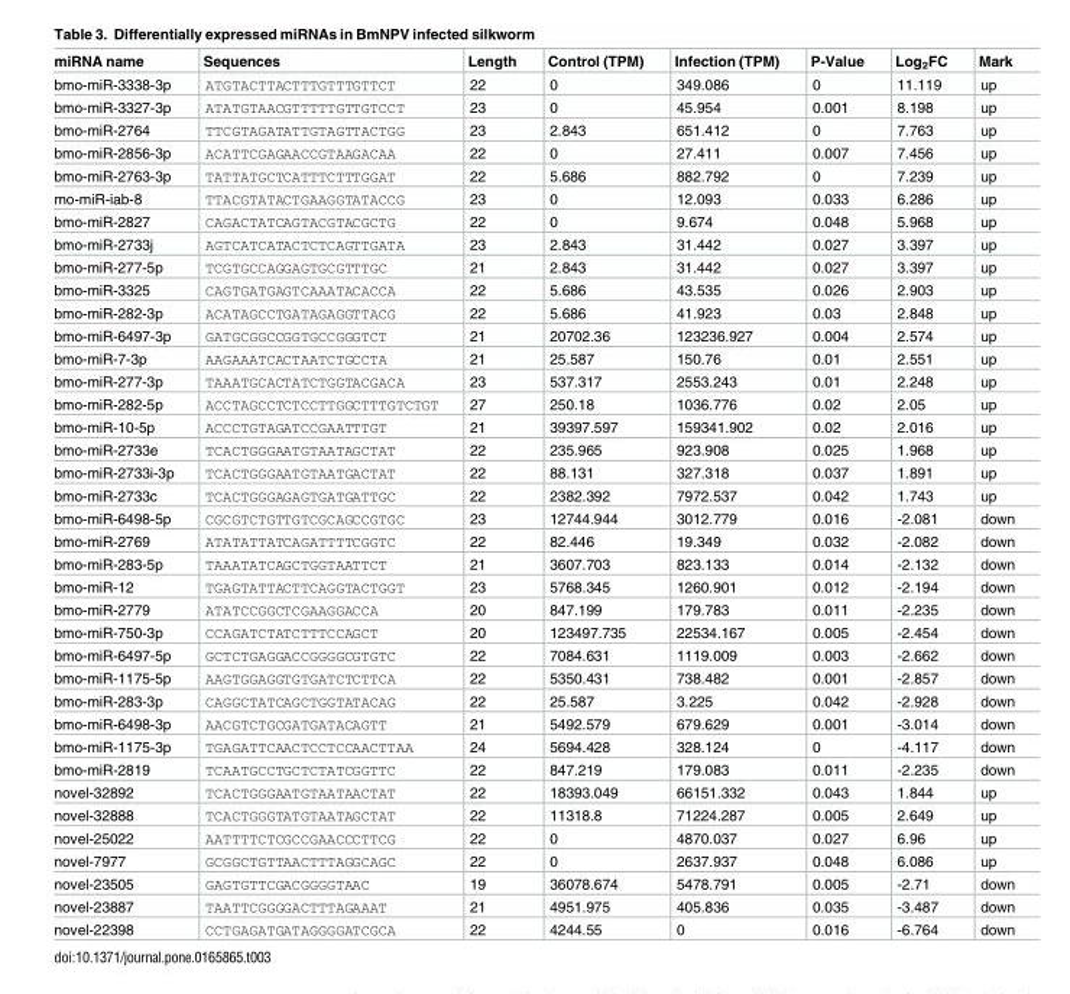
<table><thead><tr><td>miRNA name</td><td>Sequences</td><td>Length</td><td>Control (TPM)</td><td>Infection (TPM)</td><td>P-Value</td><td>Log<sub>2</sub>FC</td><td>Mark</td></tr></thead><tbody><tr><td>bmo-miR-3338-3p</td><td>ATGTACTTACTTTGTTTGTTCT</td><td>22</td><td>0</td><td>349.086</td><td>0</td><td>11.119</td><td>up</td></tr><tr><td>bmo-miR-3327-3p</td><td>ATATGTAACGTTTTTGTTGTCCT</td><td>23</td><td>0</td><td>45.954</td><td>0.001</td><td>8.198</td><td>up</td></tr><tr><td>bmo-miR-2764</td><td>TTCGTAGATATTGTAGTTACTGG</td><td>23</td><td>2.843</td><td>651.412</td><td>0</td><td>7.763</td><td>up</td></tr><tr><td>bmo-miR-2856-3p</td><td>ACATTCGAGAACCGTAAGACAA</td><td>22</td><td>0</td><td>27.411</td><td>0.007</td><td>7.456</td><td>up</td></tr><tr><td>bmo-miR-2763-3p</td><td>TATTATGCTCATTTCTTTGGAT</td><td>22</td><td>5.686</td><td>882.792</td><td>0</td><td>7.239</td><td>up</td></tr><tr><td>mo-miR-iab-8</td><td>TTACGTATACTGAAGGTATACCG</td><td>23</td><td>0</td><td>12.093</td><td>0.033</td><td>6.286</td><td>up</td></tr><tr><td>bmo-miR-2827</td><td>CAGACTATCAGTACGTACGCTG</td><td>22</td><td>0</td><td>9.674</td><td>0.048</td><td>5.968</td><td>up</td></tr><tr><td>bmo-miR-2733j</td><td>AGTCATCATACTCTCAGTTGATA</td><td>23</td><td>2.843</td><td>31.442</td><td>0.027</td><td>3.397</td><td>up</td></tr><tr><td>bmo-miR-277-5p</td><td>TCGTGCCAGGAGTGCGTTTGC</td><td>21</td><td>2.843</td><td>31.442</td><td>0.027</td><td>3.397</td><td>up</td></tr><tr><td>bmo-miR-3325</td><td>CAGTGATGAGTCAAATACACCA</td><td>22</td><td>5.686</td><td>43.535</td><td>0.026</td><td>2.903</td><td>up</td></tr><tr><td>bmo-miR-282-3p</td><td>ACATAGCCTGATAGAGGTTACG</td><td>22</td><td>5.686</td><td>41.923</td><td>0.03</td><td>2.848</td><td>up</td></tr><tr><td>bmo-miR-6497-3p</td><td>GATGCGGCCGGTGCCGGGTCT</td><td>21</td><td>20702.36</td><td>123236.927</td><td>0.004</td><td>2.574</td><td>up</td></tr><tr><td>bmo-miR-7-3p</td><td>AAGAAATCACTAATCTGCCTA</td><td>21</td><td>25.587</td><td>150.76</td><td>0.01</td><td>2.551</td><td>up</td></tr><tr><td>bmo-miR-277-3p</td><td>TAAATGCACTATCTGGTACGACA</td><td>23</td><td>537.317</td><td>2553.243</td><td>0.01</td><td>2.248</td><td>up</td></tr><tr><td>bmo-miR-282-5p</td><td>ACCTAGCCTCTCCTTGGCTTTGTCTGT</td><td>27</td><td>250.18</td><td>1036.776</td><td>0.02</td><td>2.05</td><td>up</td></tr><tr><td>bmo-miR-10-5p</td><td>ACCCTGTAGATCCGAATTTGT</td><td>21</td><td>39397.597</td><td>159341.902</td><td>0.02</td><td>2.016</td><td>up</td></tr><tr><td>bmo-miR-2733e</td><td>TCACTGGGAATGTAATAGCTAT</td><td>22</td><td>235.965</td><td>923.908</td><td>0.025</td><td>1.968</td><td>up</td></tr><tr><td>bmo-miR-2733i-3p</td><td>TCACTGGGAATGTAATGACTAT</td><td>22</td><td>88.131</td><td>327.318</td><td>0.037</td><td>1.891</td><td>up</td></tr><tr><td>bmo-miR-2733c</td><td>TCACTGGGAGAGTGATGATTGC</td><td>22</td><td>2382.392</td><td>7972.537</td><td>0.042</td><td>1.743</td><td>up</td></tr><tr><td>bmo-miR-6498-5p</td><td>CGCGTCTGTTGTCGCAGCCGTGC</td><td>23</td><td>12744.944</td><td>3012.779</td><td>0.016</td><td>-2.081</td><td>down</td></tr><tr><td>bmo-miR-2769</td><td>ATATATTATCAGATTTTCGGTC</td><td>22</td><td>82.446</td><td>19.349</td><td>0.032</td><td>-2.082</td><td>down</td></tr><tr><td>bmo-miR-283-5p</td><td>TAAATATCAGCTGGTAATTCT</td><td>21</td><td>3607.703</td><td>823.133</td><td>0.014</td><td>-2.132</td><td>down</td></tr><tr><td>bmo-miR-12</td><td>TGAGTATTACTTCAGGTACTGGT</td><td>23</td><td>5768.345</td><td>1260.901</td><td>0.012</td><td>-2.194</td><td>down</td></tr><tr><td>bmo-miR-2779</td><td>ATATCCGGCTCGAAGGACCA</td><td>20</td><td>847.199</td><td>179.783</td><td>0.011</td><td>-2.235</td><td>down</td></tr><tr><td>bmo-miR-750-3p</td><td>CCAGATCTATCTTTCCAGCT</td><td>20</td><td>123497.735</td><td>22534.167</td><td>0.005</td><td>-2.454</td><td>down</td></tr><tr><td>bmo-miR-6497-5p</td><td>GCTCTGAGGACCGGGGCGTGTC</td><td>22</td><td>7084.631</td><td>1119.009</td><td>0.003</td><td>-2.662</td><td>down</td></tr><tr><td>bmo-miR-1175-5p</td><td>AAGTGGAGGTGTGATCTCTTCA</td><td>22</td><td>5350.431</td><td>738.482</td><td>0.001</td><td>-2.857</td><td>down</td></tr><tr><td>bmo-miR-283-3p</td><td>CAGGCTATCAGCTGGTATACAG</td><td>22</td><td>25.587</td><td>3.225</td><td>0.042</td><td>-2.928</td><td>down</td></tr><tr><td>bmo-miR-6498-3p</td><td>AACGTCTGCGATGATACAGTT</td><td>21</td><td>5492.579</td><td>679.629</td><td>0.001</td><td>-3.014</td><td>down</td></tr><tr><td>bmo-miR-1175-3p</td><td>TGAGATTCAACTCCTCCAACTTAA</td><td>24</td><td>5694.428</td><td>328.124</td><td>0</td><td>-4.117</td><td>down</td></tr><tr><td>bmo-miR-2819</td><td>TCAATGCCTGCTCTATCGGTTC</td><td>22</td><td>847.219</td><td>179.083</td><td>0.011</td><td>-2.235</td><td>down</td></tr><tr><td>novel-32892</td><td>TCACTGGGAATGTAATAACTAT</td><td>22</td><td>18393.049</td><td>66151.332</td><td>0.043</td><td>1.844</td><td>up</td></tr><tr><td>novel-32888</td><td>TCACTGGGTATGTAATAGCTAT</td><td>22</td><td>11318.8</td><td>71224.287</td><td>0.005</td><td>2.649</td><td>up</td></tr><tr><td>novel-25022</td><td>AATTTTCTCGCCGAACCCTTCG</td><td>22</td><td>0</td><td>4870.037</td><td>0.027</td><td>6.96</td><td>up</td></tr><tr><td>novel-7977</td><td>GCGGCTGTTAACTTTAGGCAGC</td><td>22</td><td>0</td><td>2637.937</td><td>0.048</td><td>6.086</td><td>up</td></tr><tr><td>novel-23505</td><td>GAGTGTTCGACGGGGTAAC</td><td>19</td><td>36078.674</td><td>5478.791</td><td>0.005</td><td>-2.71</td><td>down</td></tr><tr><td>novel-23887</td><td>TAATTCGGGGACTTTAGAAAT</td><td>21</td><td>4951.975</td><td>405.836</td><td>0.035</td><td>-3.487</td><td>down</td></tr><tr><td>novel-22398</td><td>CCTGAGATGATAGGGGATCGCA</td><td>22</td><td>4244.55</td><td>0</td><td>0.016</td><td>-6.764</td><td>down</td></tr></tbody></table>